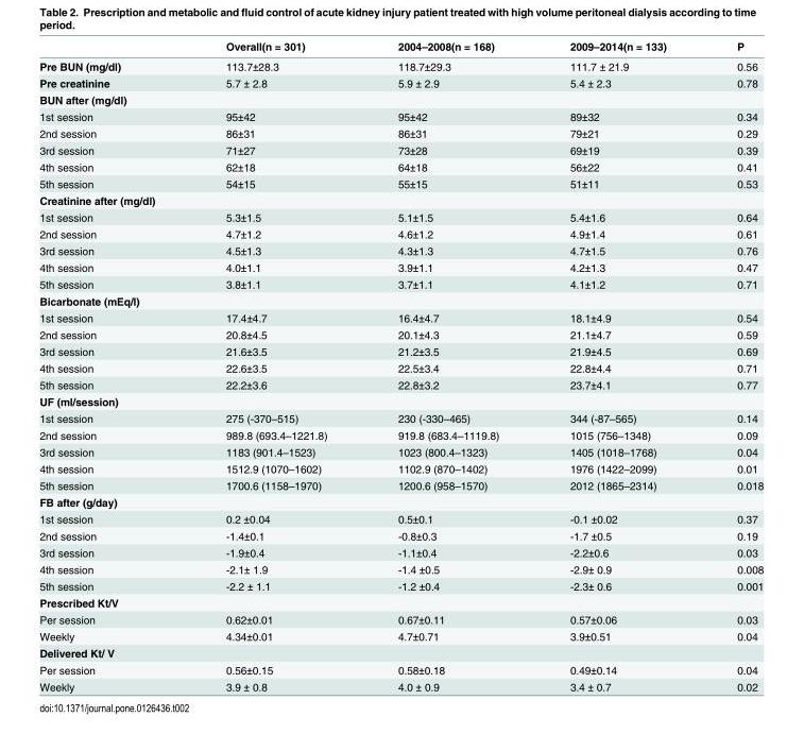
<table><thead><tr><td></td><td>Overall(n = 301)</td><td>2004–2008(n = 168)</td><td>2009–2014(n = 133)</td><td>P</td></tr></thead><tbody><tr><td>Pre BUN (mg/dl)</td><td>113.7±28.3</td><td>118.7±29.3</td><td>111.7 ± 21.9</td><td>0.56</td></tr><tr><td>Pre creatinine</td><td>5.7 ± 2.8</td><td>5.9 ± 2.9</td><td>5.4 ± 2.3</td><td>0.78</td></tr><tr><td colspan="5">BUN after (mg/dl)</td></tr><tr><td>1st session</td><td>95±42</td><td>95±42</td><td>89±32</td><td>0.34</td></tr><tr><td>2nd session</td><td>86±31</td><td>86±31</td><td>79±21</td><td>0.29</td></tr><tr><td>3rd session</td><td>71±27</td><td>73±28</td><td>69±19</td><td>0.39</td></tr><tr><td>4th session</td><td>62±18</td><td>64±18</td><td>56±22</td><td>0.41</td></tr><tr><td>5th session</td><td>54±15</td><td>55±15</td><td>51±11</td><td>0.53</td></tr><tr><td colspan="5">Creatinine after (mg/dl)</td></tr><tr><td>1st session</td><td>5.3±1.5</td><td>5.1±1.5</td><td>5.4±1.6</td><td>0.64</td></tr><tr><td>2nd session</td><td>4.7±1.2</td><td>4.6±1.2</td><td>4.9±1.4</td><td>0.61</td></tr><tr><td>3rd session</td><td>4.5±1.3</td><td>4.3±1.3</td><td>4.7±1.5</td><td>0.76</td></tr><tr><td>4th session</td><td>4.0±1.1</td><td>3.9±1.1</td><td>4.2±1.3</td><td>0.47</td></tr><tr><td>5th session</td><td>3.8±1.1</td><td>3.7±1.1</td><td>4.1±1.2</td><td>0.71</td></tr><tr><td colspan="5">Bicarbonate (mEq/l)</td></tr><tr><td>1st session</td><td>17.4±4.7</td><td>16.4±4.7</td><td>18.1±4.9</td><td>0.54</td></tr><tr><td>2nd session</td><td>20.8±4.5</td><td>20.1±4.3</td><td>21.1±4.7</td><td>0.59</td></tr><tr><td>3rd session</td><td>21.6±3.5</td><td>21.2±3.5</td><td>21.9±4.5</td><td>0.69</td></tr><tr><td>4th session</td><td>22.6±3.5</td><td>22.5±3.4</td><td>22.8±4.4</td><td>0.71</td></tr><tr><td>5th session</td><td>22.2±3.6</td><td>22.8±3.2</td><td>23.7±4.1</td><td>0.77</td></tr><tr><td colspan="5">UF (ml/session)</td></tr><tr><td>1st session</td><td>275 (-370–515)</td><td>230 (-330–465)</td><td>344 (-87–565)</td><td>0.14</td></tr><tr><td>2nd session</td><td>989.8 (693.4–1221.8)</td><td>919.8 (683.4–1119.8)</td><td>1015 (756–1348)</td><td>0.09</td></tr><tr><td>3rd session</td><td>1183 (901.4–1523)</td><td>1023 (800.4–1323)</td><td>1405 (1018–1768)</td><td>0.04</td></tr><tr><td>4th session</td><td>1512.9 (1070–1602)</td><td>1102.9 (870–1402)</td><td>1976 (1422–2099)</td><td>0.01</td></tr><tr><td>5th session</td><td>1700.6 (1158–1970)</td><td>1200.6 (958–1570)</td><td>2012 (1865–2314)</td><td>0.018</td></tr><tr><td colspan="5">FB after (g/day)</td></tr><tr><td>1st session</td><td>0.2 ±0.04</td><td>0.5±0.1</td><td>-0.1 ±0.02</td><td>0.37</td></tr><tr><td>2nd session</td><td>-1.4±0.1</td><td>-0.8±0.3</td><td>-1.7 ±0.5</td><td>0.19</td></tr><tr><td>3rd session</td><td>-1.9±0.4</td><td>-1.1±0.4</td><td>-2.2±0.6</td><td>0.03</td></tr><tr><td>4th session</td><td>-2.1± 1.9</td><td>-1.4 ±0.5</td><td>-2.9± 0.9</td><td>0.008</td></tr><tr><td>5th session</td><td>-2.2 ± 1.1</td><td>-1.2 ±0.4</td><td>-2.3± 0.6</td><td>0.001</td></tr><tr><td colspan="5">Prescribed Kt/V</td></tr><tr><td>Per session</td><td>0.62±0.01</td><td>0.67±0.11</td><td>0.57±0.06</td><td>0.03</td></tr><tr><td>Weekly</td><td>4.34±0.01</td><td>4.7±0.71</td><td>3.9±0.51</td><td>0.04</td></tr><tr><td colspan="5">Delivered Kt/ V</td></tr><tr><td>Per session</td><td>0.56±0.15</td><td>0.58±0.18</td><td>0.49±0.14</td><td>0.04</td></tr><tr><td>Weekly</td><td>3.9 ± 0.8</td><td>4.0 ± 0.9</td><td>3.4 ± 0.7</td><td>0.02</td></tr></tbody></table>